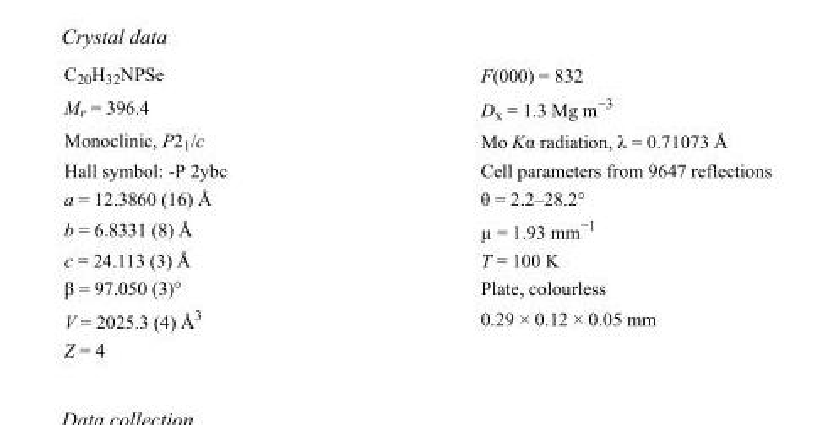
<table><tbody><tr><td>C<sub>20</sub>H<sub>32</sub>NPSe</td><td>F(000) = 832</td></tr><tr><td>M<sub>r</sub> = 396.4</td><td>D<sub>x</sub> = 1.3 Mg m<sup>−3</sup></td></tr><tr><td>Monoclinic, P2<sub>1</sub>/c</td><td>Mo Kα radiation, λ = 0.71073 Å</td></tr><tr><td>Hall symbol: -P 2ybc</td><td>Cell parameters from 9647 reflections</td></tr><tr><td>a = 12.3860 (16) Å</td><td>θ = 2.2–28.2°</td></tr><tr><td>b = 6.8331 (8) Å</td><td>µ = 1.93 mm<sup>−1</sup></td></tr><tr><td>c = 24.113 (3) Å</td><td>T = 100 K</td></tr><tr><td>β = 97.050 (3)°</td><td>Plate, colourless</td></tr><tr><td>V = 2025.3 (4) Å<sup>3</sup></td><td>0.29 × 0.12 × 0.05 mm</td></tr><tr><td>Z = 4</td><td></td></tr></tbody></table>